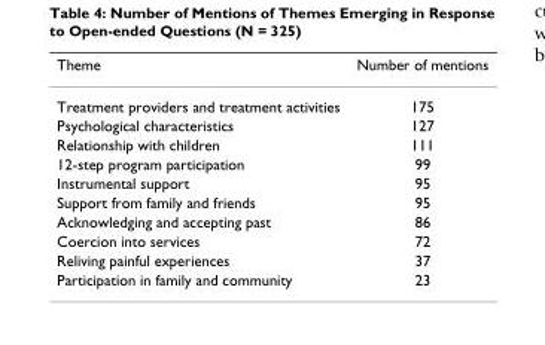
<table><thead><tr><td>Theme</td><td>Number of mentions</td></tr></thead><tbody><tr><td>Treatment providers and treatment activities</td><td>175</td></tr><tr><td>Psychological characteristics</td><td>127</td></tr><tr><td>Relationship with children</td><td>111</td></tr><tr><td>12-step program participation</td><td>99</td></tr><tr><td>Instrumental support</td><td>95</td></tr><tr><td>Support from family and friends</td><td>95</td></tr><tr><td>Acknowledging and accepting past</td><td>86</td></tr><tr><td>Coercion into services</td><td>72</td></tr><tr><td>Reliving painful experiences</td><td>37</td></tr><tr><td>Participation in family and community</td><td>23</td></tr></tbody></table>